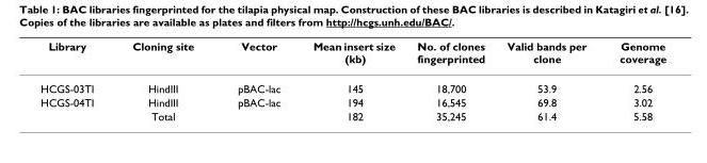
<table><thead><tr><td>Library</td><td>Cloning site</td><td>Vector</td><td>Mean insert size (kb)</td><td>No. of clones fingerprinted</td><td>Valid bands per clone</td><td>Genome coverage</td></tr></thead><tbody><tr><td>HCGS-03TI</td><td>HindIII</td><td>pBAC-lac</td><td>145</td><td>18,700</td><td>53.9</td><td>2.56</td></tr><tr><td rowspan="2">HCGS-04TI</td><td>HindIII</td><td>pBAC-lac</td><td>194</td><td>16,545</td><td>69.8</td><td>3.02</td></tr><tr><td>Total</td><td></td><td>182</td><td>35,245</td><td>61.4</td><td>5.58</td></tr></tbody></table>